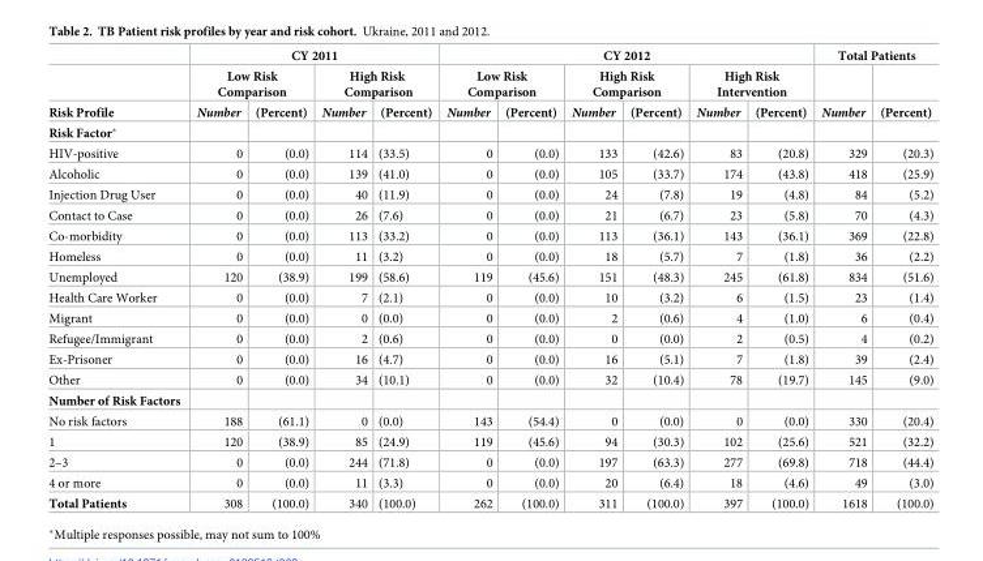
<table><thead><tr><td rowspan="3">Risk Profile</td><td colspan="4">CY 2011</td><td colspan="6">CY 2012</td><td colspan="2">Total Patients</td></tr><tr><td colspan="2">Low Risk Comparison</td><td colspan="2">High Risk Comparison</td><td colspan="2">Low Risk Comparison</td><td colspan="2">High Risk Comparison</td><td colspan="2">High Risk Intervention</td><td rowspan="2">Number</td><td rowspan="2">(Percent)</td></tr><tr><td>Number</td><td>(Percent)</td><td>Number</td><td>(Percent)</td><td>Number</td><td>(Percent)</td><td>Number</td><td>(Percent)</td><td>Number</td><td>(Percent)</td></tr></thead><tbody><tr><td colspan="13">Risk Factor*</td></tr><tr><td>HIV-positive</td><td>0</td><td>(0.0)</td><td>114</td><td>(33.5)</td><td>0</td><td>(0.0)</td><td>133</td><td>(42.6)</td><td>83</td><td>(20.8)</td><td>329</td><td>(20.3)</td></tr><tr><td>Alcoholic</td><td>0</td><td>(0.0)</td><td>139</td><td>(41.0)</td><td>0</td><td>(0.0)</td><td>105</td><td>(33.7)</td><td>174</td><td>(43.8)</td><td>418</td><td>(25.9)</td></tr><tr><td>Injection Drug User</td><td>0</td><td>(0.0)</td><td>40</td><td>(11.9)</td><td>0</td><td>(0.0)</td><td>24</td><td>(7.8)</td><td>19</td><td>(4.8)</td><td>84</td><td>(5.2)</td></tr><tr><td>Contact to Case</td><td>0</td><td>(0.0)</td><td>26</td><td>(7.6)</td><td>0</td><td>(0.0)</td><td>21</td><td>(6.7)</td><td>23</td><td>(5.8)</td><td>70</td><td>(4.3)</td></tr><tr><td>Co-morbidity</td><td>0</td><td>(0.0)</td><td>113</td><td>(33.2)</td><td>0</td><td>(0.0)</td><td>113</td><td>(36.1)</td><td>143</td><td>(36.1)</td><td>369</td><td>(22.8)</td></tr><tr><td>Homeless</td><td>0</td><td>(0.0)</td><td>11</td><td>(3.2)</td><td>0</td><td>(0.0)</td><td>18</td><td>(5.7)</td><td>7</td><td>(1.8)</td><td>36</td><td>(2.2)</td></tr><tr><td>Unemployed</td><td>120</td><td>(38.9)</td><td>199</td><td>(58.6)</td><td>119</td><td>(45.6)</td><td>151</td><td>(48.3)</td><td>245</td><td>(61.8)</td><td>834</td><td>(51.6)</td></tr><tr><td>Health Care Worker</td><td>0</td><td>(0.0)</td><td>7</td><td>(2.1)</td><td>0</td><td>(0.0)</td><td>10</td><td>(3.2)</td><td>6</td><td>(1.5)</td><td>23</td><td>(1.4)</td></tr><tr><td>Migrant</td><td>0</td><td>(0.0)</td><td>0</td><td>(0.0)</td><td>0</td><td>(0.0)</td><td>2</td><td>(0.6)</td><td>4</td><td>(1.0)</td><td>6</td><td>(0.4)</td></tr><tr><td>Refugee/Immigrant</td><td>0</td><td>(0.0)</td><td>2</td><td>(0.6)</td><td>0</td><td>(0.0)</td><td>0</td><td>(0.0)</td><td>2</td><td>(0.5)</td><td>4</td><td>(0.2)</td></tr><tr><td>Ex-Prisoner</td><td>0</td><td>(0.0)</td><td>16</td><td>(4.7)</td><td>0</td><td>(0.0)</td><td>16</td><td>(5.1)</td><td>7</td><td>(1.8)</td><td>39</td><td>(2.4)</td></tr><tr><td>Other</td><td>0</td><td>(0.0)</td><td>34</td><td>(10.1)</td><td>0</td><td>(0.0)</td><td>32</td><td>(10.4)</td><td>78</td><td>(19.7)</td><td>145</td><td>(9.0)</td></tr><tr><td colspan="13">Number of Risk Factors</td></tr><tr><td>No risk factors</td><td>188</td><td>(61.1)</td><td>0</td><td>(0.0)</td><td>143</td><td>(54.4)</td><td>0</td><td>(0.0)</td><td>0</td><td>(0.0)</td><td>330</td><td>(20.4)</td></tr><tr><td>1</td><td>120</td><td>(38.9)</td><td>85</td><td>(24.9)</td><td>119</td><td>(45.6)</td><td>94</td><td>(30.3)</td><td>102</td><td>(25.6)</td><td>521</td><td>(32.2)</td></tr><tr><td>2–3</td><td>0</td><td>(0.0)</td><td>244</td><td>(71.8)</td><td>0</td><td>(0.0)</td><td>197</td><td>(63.3)</td><td>277</td><td>(69.8)</td><td>718</td><td>(44.4)</td></tr><tr><td>4 or more</td><td>0</td><td>(0.0)</td><td>11</td><td>(3.3)</td><td>0</td><td>(0.0)</td><td>20</td><td>(6.4)</td><td>18</td><td>(4.6)</td><td>49</td><td>(3.0)</td></tr><tr><td>Total Patients</td><td>308</td><td>(100.0)</td><td>340</td><td>(100.0)</td><td>262</td><td>(100.0)</td><td>311</td><td>(100.0)</td><td>397</td><td>(100.0)</td><td>1618</td><td>(100.0)</td></tr></tbody></table>